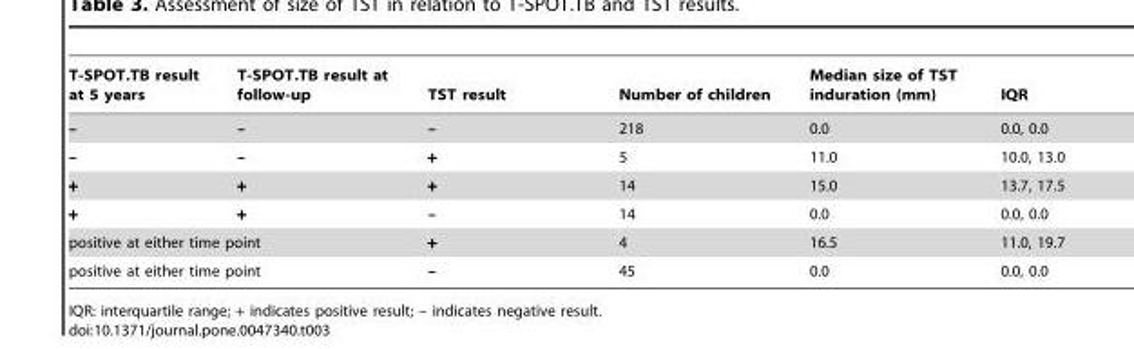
<table><thead><tr><td>T-SPOT.TB result at 5 years</td><td>T-SPOT.TB result at follow-up</td><td>TST result</td><td>Number of children</td><td>Median size of TST induration (mm)</td><td>IQR</td></tr></thead><tbody><tr><td>–</td><td>–</td><td>–</td><td>218</td><td>0.0</td><td>0.0, 0.0</td></tr><tr><td>–</td><td>–</td><td>+</td><td>5</td><td>11.0</td><td>10.0, 13.0</td></tr><tr><td>+</td><td>+</td><td>+</td><td>14</td><td>15.0</td><td>13.7, 17.5</td></tr><tr><td>+</td><td>+</td><td>–</td><td>14</td><td>0.0</td><td>0.0, 0.0</td></tr><tr><td colspan="2">positive at either time point</td><td>+</td><td>4</td><td>16.5</td><td>11.0, 19.7</td></tr><tr><td colspan="2">positive at either time point</td><td>–</td><td>45</td><td>0.0</td><td>0.0, 0.0</td></tr></tbody></table>